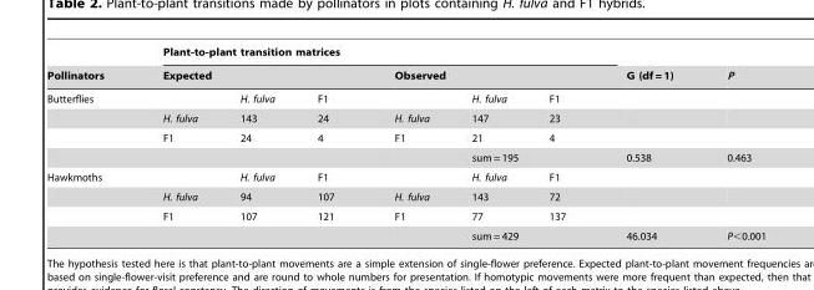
<table><thead><tr><td rowspan="3">Pollinators Butterflies</td><td colspan="6">Plant-to-plant transition matrices</td><td rowspan="3">G (df = 1)</td><td rowspan="3">P</td></tr><tr><td colspan="3">Expected</td><td colspan="3">Observed</td></tr><tr><td></td><td>H. fulva</td><td>F1</td><td></td><td>H. fulva</td><td>F1</td></tr></thead><tbody><tr><td></td><td>H. fulva</td><td>143</td><td>24</td><td>H. fulva</td><td>147</td><td>23</td><td></td><td></td></tr><tr><td></td><td>F1</td><td>24</td><td>4</td><td>F1</td><td>21</td><td>4</td><td></td><td></td></tr><tr><td></td><td></td><td></td><td></td><td></td><td colspan="2">sum = 195</td><td>0.538</td><td>0.463</td></tr><tr><td rowspan="4">Hawkmoths</td><td></td><td>H. fulva</td><td>F1</td><td></td><td>H. fulva</td><td>F1</td><td></td><td></td></tr><tr><td>H. fulva</td><td>94</td><td>107</td><td>H. fulva</td><td>143</td><td>72</td><td></td><td></td></tr><tr><td>F1</td><td>107</td><td>121</td><td>F1</td><td>77</td><td>137</td><td></td><td></td></tr><tr><td></td><td></td><td></td><td></td><td colspan="2">sum = 429</td><td>46.034</td><td>P&lt;0.001</td></tr></tbody></table>